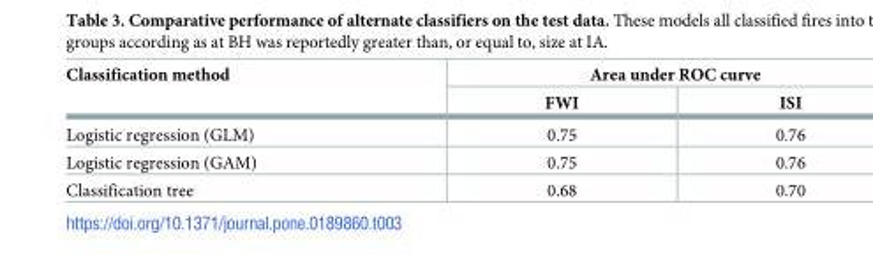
<table><thead><tr><td rowspan="2">Classification method</td><td colspan="2">Area under ROC curve</td></tr><tr><td>FWI</td><td>ISI</td></tr></thead><tbody><tr><td>Logistic regression (GLM)</td><td>0.75</td><td>0.76</td></tr><tr><td>Logistic regression (GAM)</td><td>0.75</td><td>0.76</td></tr><tr><td>Classification tree</td><td>0.68</td><td>0.70</td></tr></tbody></table>